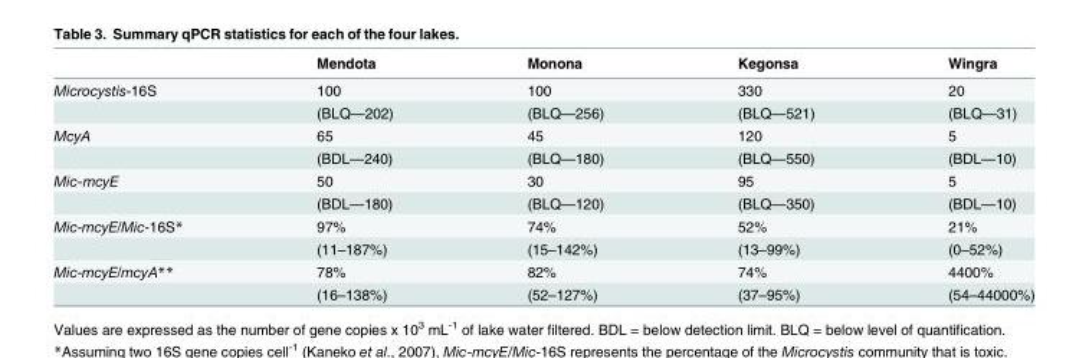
<table><thead><tr><td></td><td>Mendota</td><td>Monona</td><td>Kegonsa</td><td>Wingra</td></tr></thead><tbody><tr><td rowspan="2">Microcystis-16S</td><td>100</td><td>100</td><td>330</td><td>20</td></tr><tr><td>(BLQ—202)</td><td>(BLQ—256)</td><td>(BLQ—521)</td><td>(BLQ—31)</td></tr><tr><td rowspan="2">McyA</td><td>65</td><td>45</td><td>120</td><td>5</td></tr><tr><td>(BDL—240)</td><td>(BLQ—180)</td><td>(BLQ—550)</td><td>(BDL—10)</td></tr><tr><td rowspan="2">Mic-mcyE</td><td>50</td><td>30</td><td>95</td><td>5</td></tr><tr><td>(BDL—180)</td><td>(BLQ—120)</td><td>(BLQ—350)</td><td>(BDL—10)</td></tr><tr><td rowspan="2">Mic-mcyE/Mic-16S*</td><td>97%</td><td>74%</td><td>52%</td><td>21%</td></tr><tr><td>(11–187%)</td><td>(15–142%)</td><td>(13–99%)</td><td>(0–52%)</td></tr><tr><td rowspan="2">Mic-mcyE/mcyA**</td><td>78%</td><td>82%</td><td>74%</td><td>4400%</td></tr><tr><td>(16–138%)</td><td>(52–127%)</td><td>(37–95%)</td><td>(54–44000%)</td></tr></tbody></table>